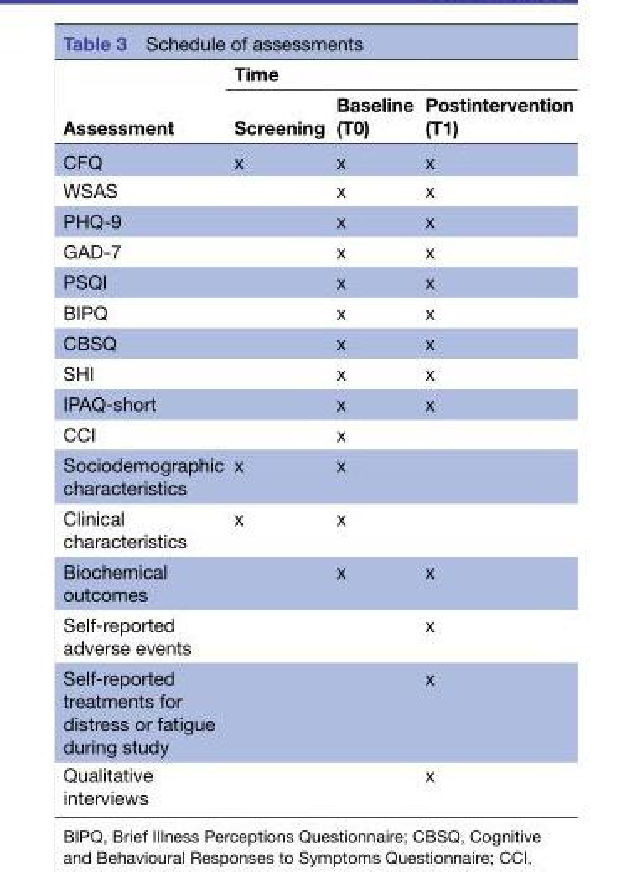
<table><thead><tr><td rowspan="2">Assessment</td><td colspan="3">Time</td></tr><tr><td>Screening</td><td>Baseline (T0)</td><td>Postintervention (T1)</td></tr></thead><tbody><tr><td>CFQ</td><td>x</td><td>x</td><td>x</td></tr><tr><td>WSAS</td><td></td><td>x</td><td>x</td></tr><tr><td>PHQ-9</td><td></td><td>x</td><td>x</td></tr><tr><td>GAD-7</td><td></td><td>x</td><td>x</td></tr><tr><td>PSQI</td><td></td><td>x</td><td>x</td></tr><tr><td>BIPQ</td><td></td><td>x</td><td>x</td></tr><tr><td>CBSQ</td><td></td><td>x</td><td>x</td></tr><tr><td>SHI</td><td></td><td>x</td><td>x</td></tr><tr><td>IPAQ-short</td><td></td><td>x</td><td>x</td></tr><tr><td>CCI</td><td></td><td>x</td><td></td></tr><tr><td>Sociodemographic characteristics</td><td>x</td><td>x</td><td></td></tr><tr><td>Clinical characteristics</td><td>x</td><td>x</td><td></td></tr><tr><td>Biochemical outcomes</td><td></td><td>x</td><td>x</td></tr><tr><td>Self-reported adverse events</td><td></td><td></td><td>x</td></tr><tr><td>Self-reported treatments for distress or fatigue during study</td><td></td><td></td><td>x</td></tr><tr><td>Qualitative interviews</td><td></td><td></td><td>x</td></tr></tbody></table>